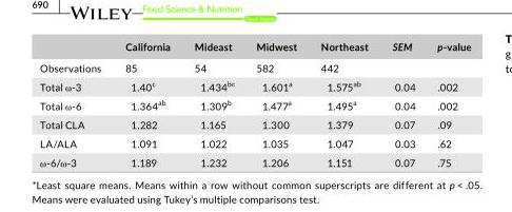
<table><thead><tr><td></td><td>California</td><td>Mideast</td><td>Midwest</td><td>Northeast</td><td>SEM</td><td>p- value</td></tr></thead><tbody><tr><td>Observations</td><td>85</td><td>54</td><td>582</td><td>442</td><td></td><td></td></tr><tr><td>Total ω- 3</td><td>1.40<sup>c</sup></td><td>1.434<sup>bc</sup></td><td>1.601<sup>a</sup></td><td>1.575<sup>ab</sup></td><td>0.04</td><td>.002</td></tr><tr><td>Total ω- 6</td><td>1.364<sup>ab</sup></td><td>1.309<sup>b</sup></td><td>1.477<sup>a</sup></td><td>1.495<sup>a</sup></td><td>0.04</td><td>.002</td></tr><tr><td>Total CLA</td><td>1.282</td><td>1.165</td><td>1.300</td><td>1.379</td><td>0.07</td><td>.09</td></tr><tr><td>LA/ALA</td><td>1.091</td><td>1.022</td><td>1.035</td><td>1.047</td><td>0.03</td><td>.62</td></tr><tr><td>ω- 6/ω- 3</td><td>1.189</td><td>1.232</td><td>1.206</td><td>1.151</td><td>0.07</td><td>.75</td></tr></tbody></table>